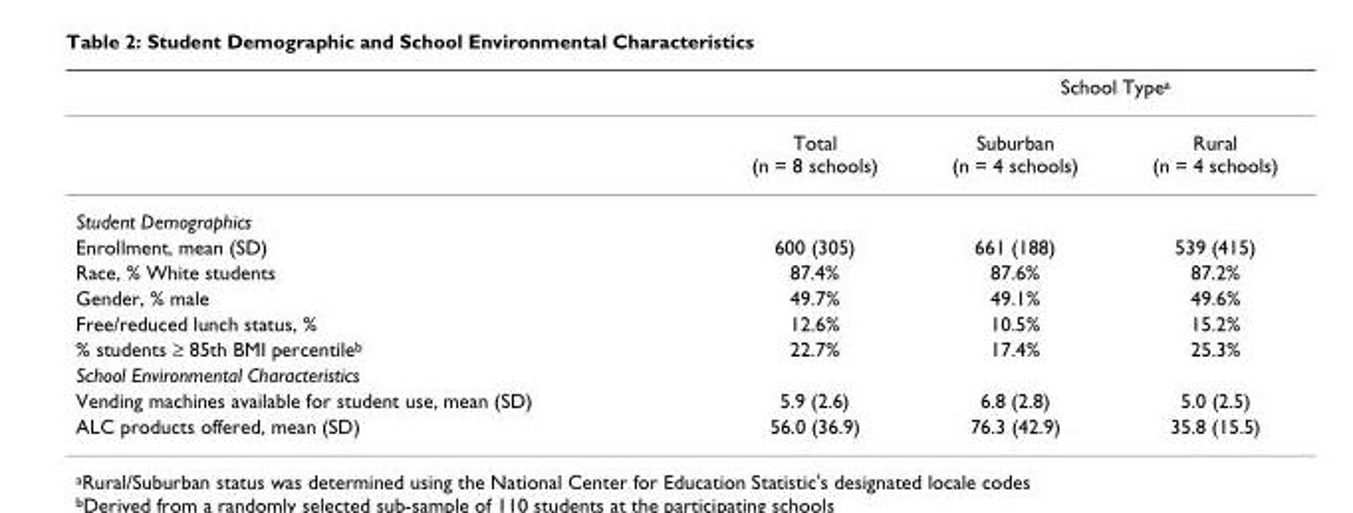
<table><thead><tr><td rowspan="2"></td><td rowspan="2">Total (n = 8 schools)</td><td colspan="2">School Type<sup>a</sup></td></tr><tr><td>Suburban (n = 4 schools)</td><td>Rural (n = 4 schools)</td></tr></thead><tbody><tr><td colspan="4">Student Demographics</td></tr><tr><td>Enrollment, mean (SD)</td><td>600 (305)</td><td>661 (188)</td><td>539 (415)</td></tr><tr><td>Race, % White students</td><td>87.4%</td><td>87.6%</td><td>87.2%</td></tr><tr><td>Gender, % male</td><td>49.7%</td><td>49.1%</td><td>49.6%</td></tr><tr><td>Free/reduced lunch status, %</td><td>12.6%</td><td>10.5%</td><td>15.2%</td></tr><tr><td>% students ≥ 85th BMI percentile<sup>b</sup></td><td>22.7%</td><td>17.4%</td><td>25.3%</td></tr><tr><td colspan="4">School Environmental Characteristics</td></tr><tr><td>Vending machines available for student use, mean (SD)</td><td>5.9 (2.6)</td><td>6.8 (2.8)</td><td>5.0 (2.5)</td></tr><tr><td>ALC products offered, mean (SD)</td><td>56.0 (36.9)</td><td>76.3 (42.9)</td><td>35.8 (15.5)</td></tr></tbody></table>